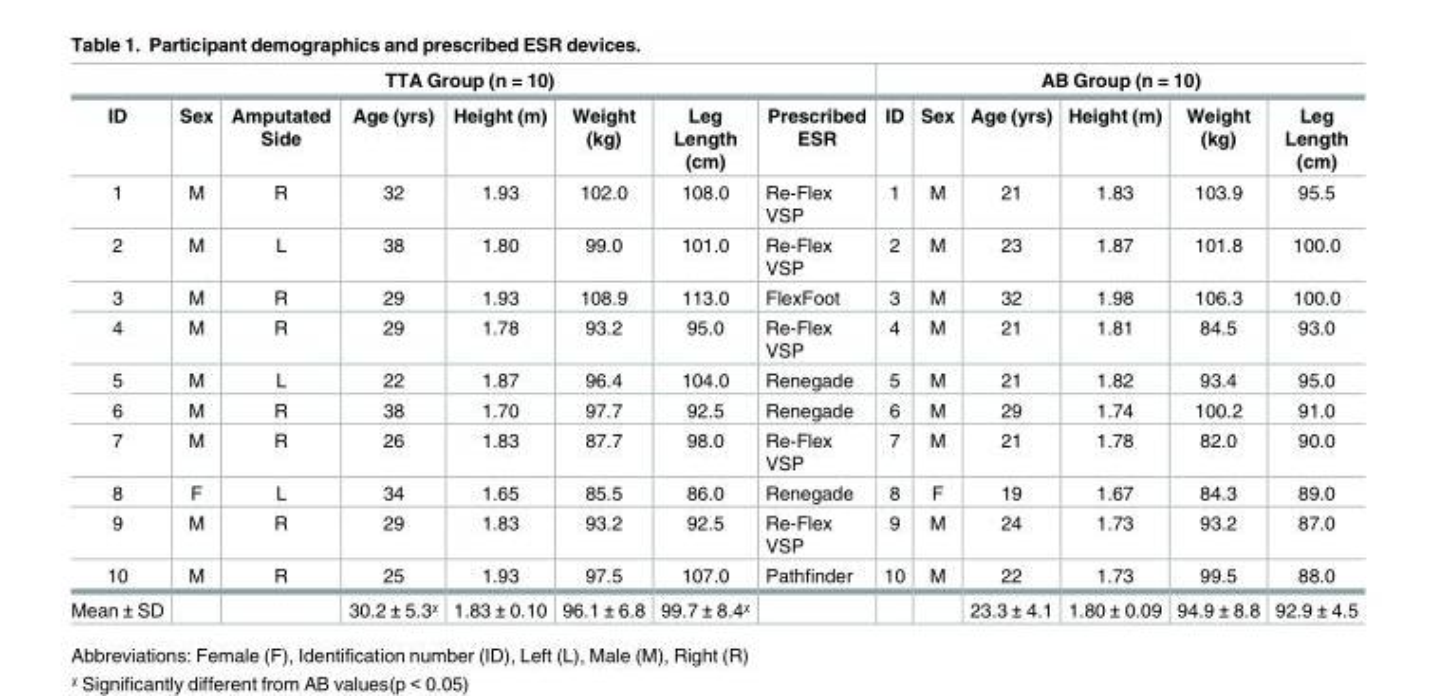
<table><thead><tr><td colspan="8">TTA Group (n = 10)</td><td colspan="6">AB Group (n = 10)</td></tr><tr><td>ID</td><td>Sex</td><td>Amputated Side</td><td>Age (yrs)</td><td>Height (m)</td><td>Weight (kg)</td><td>Leg Length (cm)</td><td>Prescribed ESR</td><td>ID</td><td>Sex</td><td>Age (yrs)</td><td>Height (m)</td><td>Weight (kg)</td><td>Leg Length (cm)</td></tr></thead><tbody><tr><td>1</td><td>M</td><td>R</td><td>32</td><td>1.93</td><td>102.0</td><td>108.0</td><td>Re-Flex VSP</td><td>1</td><td>M</td><td>21</td><td>1.83</td><td>103.9</td><td>95.5</td></tr><tr><td>2</td><td>M</td><td>L</td><td>38</td><td>1.80</td><td>99.0</td><td>101.0</td><td>Re-Flex VSP</td><td>2</td><td>M</td><td>23</td><td>1.87</td><td>101.8</td><td>100.0</td></tr><tr><td>3</td><td>M</td><td>R</td><td>29</td><td>1.93</td><td>108.9</td><td>113.0</td><td>FlexFoot</td><td>3</td><td>M</td><td>32</td><td>1.98</td><td>106.3</td><td>100.0</td></tr><tr><td>4</td><td>M</td><td>R</td><td>29</td><td>1.78</td><td>93.2</td><td>95.0</td><td>Re-Flex VSP</td><td>4</td><td>M</td><td>21</td><td>1.81</td><td>84.5</td><td>93.0</td></tr><tr><td>5</td><td>M</td><td>L</td><td>22</td><td>1.87</td><td>96.4</td><td>104.0</td><td>Renegade</td><td>5</td><td>M</td><td>21</td><td>1.82</td><td>93.4</td><td>95.0</td></tr><tr><td>6</td><td>M</td><td>R</td><td>38</td><td>1.70</td><td>97.7</td><td>92.5</td><td>Renegade</td><td>6</td><td>M</td><td>29</td><td>1.74</td><td>100.2</td><td>91.0</td></tr><tr><td>7</td><td>M</td><td>R</td><td>26</td><td>1.83</td><td>87.7</td><td>98.0</td><td>Re-Flex VSP</td><td>7</td><td>M</td><td>21</td><td>1.78</td><td>82.0</td><td>90.0</td></tr><tr><td>8</td><td>F</td><td>L</td><td>34</td><td>1.65</td><td>85.5</td><td>86.0</td><td>Renegade</td><td>8</td><td>F</td><td>19</td><td>1.67</td><td>84.3</td><td>89.0</td></tr><tr><td>9</td><td>M</td><td>R</td><td>29</td><td>1.83</td><td>93.2</td><td>92.5</td><td>Re-Flex VSP</td><td>9</td><td>M</td><td>24</td><td>1.73</td><td>93.2</td><td>87.0</td></tr><tr><td>10</td><td>M</td><td>R</td><td>25</td><td>1.93</td><td>97.5</td><td>107.0</td><td>Pathfinder</td><td>10</td><td>M</td><td>22</td><td>1.73</td><td>99.5</td><td>88.0</td></tr><tr><td>Mean ± SD</td><td></td><td></td><td>30.2 ± 5.3ᵡ</td><td>1.83 ± 0.10</td><td>96.1 ± 6.8</td><td>99.7 ± 8.4ᵡ</td><td></td><td></td><td></td><td>23.3 ± 4.1</td><td>1.80 ± 0.09</td><td>94.9 ± 8.8</td><td>92.9 ± 4.5</td></tr></tbody></table>